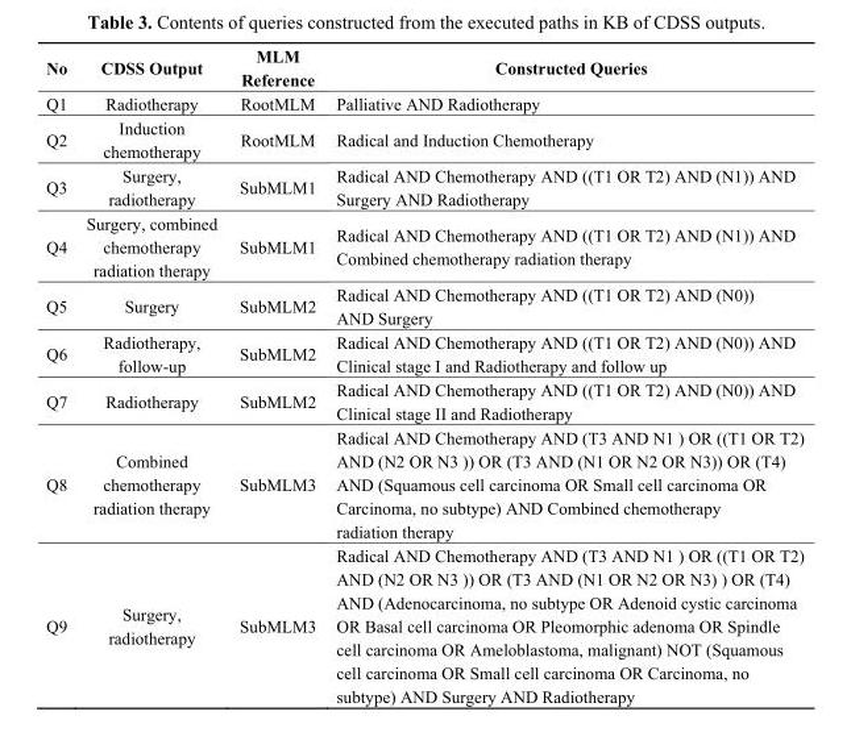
<table><thead><tr><td>No</td><td>CDSS Output</td><td>MLM Reference</td><td>Constructed Queries</td></tr></thead><tbody><tr><td>Q1</td><td>Radiotherapy</td><td>RootMLM</td><td>Palliative AND Radiotherapy</td></tr><tr><td>Q2</td><td>Induction chemotherapy</td><td>RootMLM</td><td>Radical and Induction Chemotherapy</td></tr><tr><td>Q3</td><td>Surgery, radiotherapy</td><td>SubMLM1</td><td>Radical AND Chemotherapy AND ((T1 OR T2) AND (N1)) AND Surgery AND Radiotherapy</td></tr><tr><td>Q4</td><td>Surgery, combined chemotherapy radiation therapy</td><td>SubMLM1</td><td>Radical AND Chemotherapy AND ((T1 OR T2) AND (N1)) AND Combined chemotherapy radiation therapy</td></tr><tr><td>Q5</td><td>Surgery</td><td>SubMLM2</td><td>Radical AND Chemotherapy AND ((T1 OR T2) AND (N0)) AND Surgery</td></tr><tr><td>Q6</td><td>Radiotherapy, follow-up</td><td>SubMLM2</td><td>Radical AND Chemotherapy AND ((T1 OR T2) AND (N0)) AND Clinical stage I and Radiotherapy and follow up</td></tr><tr><td>Q7</td><td>Radiotherapy</td><td>SubMLM2</td><td>Radical AND Chemotherapy AND ((T1 OR T2) AND (N0)) AND Clinical stage II and Radiotherapy</td></tr><tr><td>Q8</td><td>Combined chemotherapy radiation therapy</td><td>SubMLM3</td><td>Radical AND Chemotherapy AND (T3 AND N1 ) OR ((T1 OR T2) AND (N2 OR N3 )) OR (T3 AND (N1 OR N2 OR N3)) OR (T4) AND (Squamous cell carcinoma OR Small cell carcinoma OR Carcinoma, no subtype) AND Combined chemotherapy radiation therapy</td></tr><tr><td>Q9</td><td>Surgery, radiotherapy</td><td>SubMLM3</td><td>Radical AND Chemotherapy AND (T3 AND N1 ) OR ((T1 OR T2) AND (N2 OR N3 )) OR (T3 AND (N1 OR N2 OR N3) ) OR (T4) AND (Adenocarcinoma, no subtype OR Adenoid cystic carcinoma OR Basal cell carcinoma OR Pleomorphic adenoma OR Spindle cell carcinoma OR Ameloblastoma, malignant) NOT (Squamous cell carcinoma OR Small cell carcinoma OR Carcinoma, no subtype) AND Surgery AND Radiotherapy</td></tr></tbody></table>